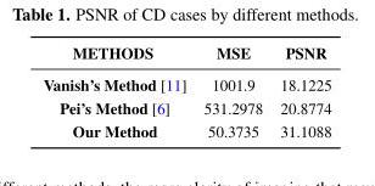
<table><thead><tr><td>METHODS</td><td>MSE</td><td>PSNR</td></tr></thead><tbody><tr><td>Vanish’s Method [11]</td><td>1001.9</td><td>18.1225</td></tr><tr><td>Pei’s Method [6]</td><td>531.2978</td><td>20.8774</td></tr><tr><td>Our Method</td><td>50.3735</td><td>31.1088</td></tr></tbody></table>